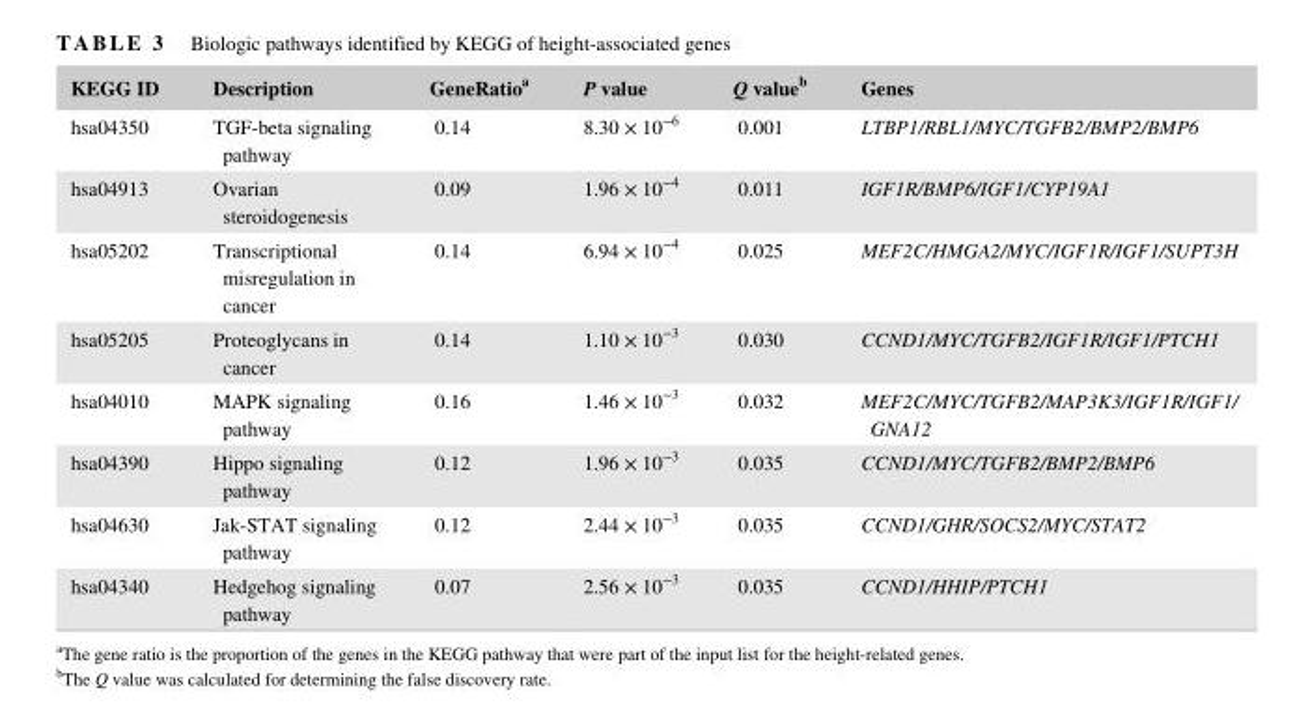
<table><thead><tr><td>KEGG ID</td><td>Description</td><td>GeneRatio<sup>a</sup></td><td>P value</td><td>Q value<sup>b</sup></td><td>Genes</td></tr></thead><tbody><tr><td>hsa04350</td><td>TGF- beta signaling pathway</td><td>0.14</td><td>8.30 × 10<sup>−6</sup></td><td>0.001</td><td>LTBP1/RBL1/MYC/TGFB2/BMP2/BMP6</td></tr><tr><td>hsa04913</td><td>Ovarian steroidogenesis</td><td>0.09</td><td>1.96 × 10<sup>−4</sup></td><td>0.011</td><td>IGF1R/BMP6/IGF1/CYP19A1</td></tr><tr><td>hsa05202</td><td>Transcriptional misregulation in cancer</td><td>0.14</td><td>6.94 × 10<sup>−4</sup></td><td>0.025</td><td>MEF2C/HMGA2/MYC/IGF1R/IGF1/SUPT3H</td></tr><tr><td>hsa05205</td><td>Proteoglycans in cancer</td><td>0.14</td><td>1.10 × 10<sup>−3</sup></td><td>0.030</td><td>CCND1/MYC/TGFB2/IGF1R/IGF1/PTCH1</td></tr><tr><td>hsa04010</td><td>MAPK signaling pathway</td><td>0.16</td><td>1.46 × 10<sup>−3</sup></td><td>0.032</td><td>MEF2C/MYC/TGFB2/MAP3K3/IGF1R/IGF1/ GNA12</td></tr><tr><td>hsa04390</td><td>Hippo signaling pathway</td><td>0.12</td><td>1.96 × 10<sup>−3</sup></td><td>0.035</td><td>CCND1/MYC/TGFB2/BMP2/BMP6</td></tr><tr><td>hsa04630</td><td>Jak- STAT signaling pathway</td><td>0.12</td><td>2.44 × 10<sup>−3</sup></td><td>0.035</td><td>CCND1/GHR/SOCS2/MYC/STAT2</td></tr><tr><td>hsa04340</td><td>Hedgehog signaling pathway</td><td>0.07</td><td>2.56 × 10<sup>−3</sup></td><td>0.035</td><td>CCND1/HHIP/PTCH1</td></tr></tbody></table>